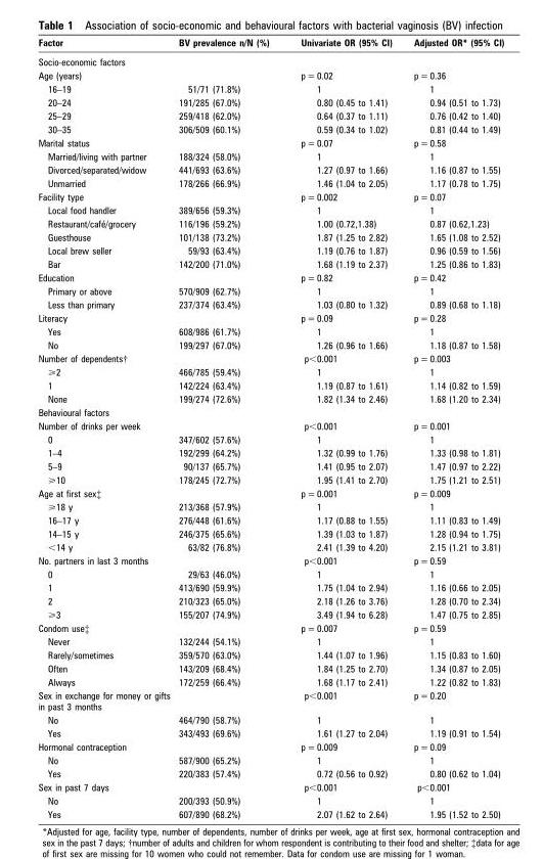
<table><thead><tr><td>Factor</td><td>BV prevalence n/N (%)</td><td>Univariate OR (95% CI)</td><td>Adjusted OR* (95% CI)</td></tr></thead><tbody><tr><td colspan="4">Socio-economic factors</td></tr><tr><td>Age (years)</td><td></td><td>p = 0.02</td><td>p = 0.36</td></tr><tr><td>16–19</td><td>51/71 (71.8%)</td><td>1</td><td>1</td></tr><tr><td>20–24</td><td>191/285 (67.0%)</td><td>0.80 (0.45 to 1.41)</td><td>0.94 (0.51 to 1.73)</td></tr><tr><td>25–29</td><td>259/418 (62.0%)</td><td>0.64 (0.37 to 1.11)</td><td>0.76 (0.42 to 1.40)</td></tr><tr><td>30–35</td><td>306/509 (60.1%)</td><td>0.59 (0.34 to 1.02)</td><td>0.81 (0.44 to 1.49)</td></tr><tr><td>Marital status</td><td></td><td>p = 0.07</td><td>p = 0.58</td></tr><tr><td>Married/living with partner</td><td>188/324 (58.0%)</td><td>1</td><td>1</td></tr><tr><td>Divorced/separated/widow</td><td>441/693 (63.6%)</td><td>1.27 (0.97 to 1.66)</td><td>1.16 (0.87 to 1.55)</td></tr><tr><td>Unmarried</td><td>178/266 (66.9%)</td><td>1.46 (1.04 to 2.05)</td><td>1.17 (0.78 to 1.75)</td></tr><tr><td>Facility type</td><td></td><td>p = 0.002</td><td>p = 0.07</td></tr><tr><td>Local food handler</td><td>389/656 (59.3%)</td><td>1</td><td>1</td></tr><tr><td>Restaurant/cafe´/grocery</td><td>116/196 (59.2%)</td><td>1.00 (0.72,1.38)</td><td>0.87 (0.62,1.23)</td></tr><tr><td>Guesthouse</td><td>101/138 (73.2%)</td><td>1.87 (1.25 to 2.82)</td><td>1.65 (1.08 to 2.52)</td></tr><tr><td>Local brew seller</td><td>59/93 (63.4%)</td><td>1.19 (0.76 to 1.87)</td><td>0.96 (0.59 to 1.56)</td></tr><tr><td>Bar</td><td>142/200 (71.0%)</td><td>1.68 (1.19 to 2.37)</td><td>1.25 (0.86 to 1.83)</td></tr><tr><td>Education</td><td></td><td>p = 0.82</td><td>p = 0.42</td></tr><tr><td>Primary or above</td><td>570/909 (62.7%)</td><td>1</td><td>1</td></tr><tr><td>Less than primary</td><td>237/374 (63.4%)</td><td>1.03 (0.80 to 1.32)</td><td>0.89 (0.68 to 1.18)</td></tr><tr><td>Literacy</td><td></td><td>p = 0.09</td><td>p = 0.28</td></tr><tr><td>Yes</td><td>608/986 (61.7%)</td><td>1</td><td>1</td></tr><tr><td>No</td><td>199/297 (67.0%)</td><td>1.26 (0.96 to 1.66)</td><td>1.18 (0.87 to 1.58)</td></tr><tr><td>Number of dependents†</td><td></td><td>p&lt;0.001</td><td>p = 0.003</td></tr><tr><td>&gt;2</td><td>466/785 (59.4%)</td><td>1</td><td>1</td></tr><tr><td>1</td><td>142/224 (63.4%)</td><td>1.19 (0.87 to 1.61)</td><td>1.14 (0.82 to 1.59)</td></tr><tr><td>None</td><td>199/274 (72.6%)</td><td>1.82 (1.34 to 2.46)</td><td>1.68 (1.20 to 2.34)</td></tr><tr><td colspan="4">Behavioural factors</td></tr><tr><td>Number of drinks per week</td><td></td><td>p&lt;0.001</td><td>p = 0.001</td></tr><tr><td>0</td><td>347/602 (57.6%)</td><td>1</td><td>1</td></tr><tr><td>1–4</td><td>192/299 (64.2%)</td><td>1.32 (0.99 to 1.76)</td><td>1.33 (0.98 to 1.81)</td></tr><tr><td>5–9</td><td>90/137 (65.7%)</td><td>1.41 (0.95 to 2.07)</td><td>1.47 (0.97 to 2.22)</td></tr><tr><td>&gt;10</td><td>178/245 (72.7%)</td><td>1.95 (1.41 to 2.70)</td><td>1.75 (1.21 to 2.51)</td></tr><tr><td>Age at first sex‡</td><td></td><td>p = 0.001</td><td>p = 0.009</td></tr><tr><td>&gt;18 y</td><td>213/368 (57.9%)</td><td>1</td><td>1</td></tr><tr><td>16–17 y</td><td>276/448 (61.6%)</td><td>1.17 (0.88 to 1.55)</td><td>1.11 (0.83 to 1.49)</td></tr><tr><td>14–15 y</td><td>246/375 (65.6%)</td><td>1.39 (1.03 to 1.87)</td><td>1.28 (0.94 to 1.75)</td></tr><tr><td>&lt;14 y</td><td>63/82 (76.8%)</td><td>2.41 (1.39 to 4.20)</td><td>2.15 (1.21 to 3.81)</td></tr><tr><td>No. partners in last 3 months</td><td></td><td>p&lt;0.001</td><td>p = 0.59</td></tr><tr><td>0</td><td>29/63 (46.0%)</td><td>1</td><td>1</td></tr><tr><td>1</td><td>413/690 (59.9%)</td><td>1.75 (1.04 to 2.94)</td><td>1.16 (0.66 to 2.05)</td></tr><tr><td>2</td><td>210/323 (65.0%)</td><td>2.18 (1.26 to 3.76)</td><td>1.28 (0.70 to 2.34)</td></tr><tr><td>&gt;3</td><td>155/207 (74.9%)</td><td>3.49 (1.94 to 6.28)</td><td>1.47 (0.75 to 2.85)</td></tr><tr><td>Condom use‡</td><td></td><td>p = 0.007</td><td>p = 0.59</td></tr><tr><td>Never</td><td>132/244 (54.1%)</td><td>1</td><td>1</td></tr><tr><td>Rarely/sometimes</td><td>359/570 (63.0%)</td><td>1.44 (1.07 to 1.96)</td><td>1.15 (0.83 to 1.60)</td></tr><tr><td>Often</td><td>143/209 (68.4%)</td><td>1.84 (1.25 to 2.70)</td><td>1.34 (0.87 to 2.05)</td></tr><tr><td>Always</td><td>172/259 (66.4%)</td><td>1.68 (1.17 to 2.41)</td><td>1.22 (0.82 to 1.83)</td></tr><tr><td>Sex in exchange for money or gifts in past 3 months</td><td></td><td>p&lt;0.001</td><td>p = 0.20</td></tr><tr><td>No</td><td>464/790 (58.7%)</td><td>1</td><td>1</td></tr><tr><td>Yes</td><td>343/493 (69.6%)</td><td>1.61 (1.27 to 2.04)</td><td>1.19 (0.91 to 1.54)</td></tr><tr><td>Hormonal contraception</td><td></td><td>p = 0.009</td><td>p = 0.09</td></tr><tr><td>No</td><td>587/900 (65.2%)</td><td>1</td><td>1</td></tr><tr><td>Yes</td><td>220/383 (57.4%)</td><td>0.72 (0.56 to 0.92)</td><td>0.80 (0.62 to 1.04)</td></tr><tr><td>Sex in past 7 days</td><td></td><td>p&lt;0.001</td><td>p&lt;0.001</td></tr><tr><td>No</td><td>200/393 (50.9%)</td><td>1</td><td>1</td></tr><tr><td>Yes</td><td>607/890 (68.2%)</td><td>2.07 (1.62 to 2.64)</td><td>1.95 (1.52 to 2.50)</td></tr></tbody></table>